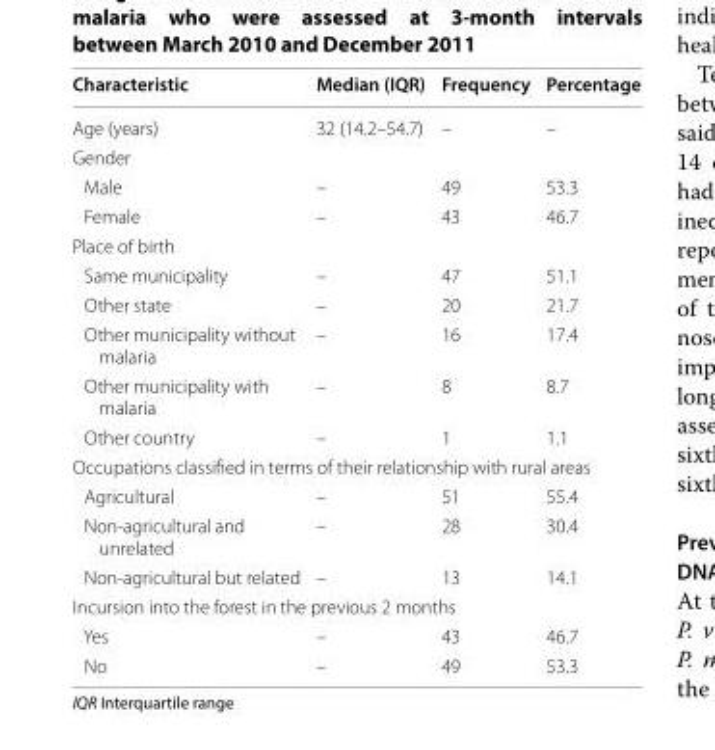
<table><thead><tr><td>Characteristic</td><td>Median (IQR)</td><td>Frequency</td><td>Percentage</td></tr></thead><tbody><tr><td>Age (years)</td><td>32 (14.2–54.7)</td><td>–</td><td>–</td></tr><tr><td colspan="4">Gender</td></tr><tr><td>Male</td><td>–</td><td>49</td><td>53.3</td></tr><tr><td>Female</td><td>–</td><td>43</td><td>46.7</td></tr><tr><td colspan="4">Place of birth</td></tr><tr><td>Same municipality</td><td>–</td><td>47</td><td>51.1</td></tr><tr><td>Other state</td><td>–</td><td>20</td><td>21.7</td></tr><tr><td>Other municipality without malaria</td><td>–</td><td>16</td><td>17.4</td></tr><tr><td>Other municipality with malaria</td><td>–</td><td>8</td><td>8.7</td></tr><tr><td>Other country</td><td>–</td><td>1</td><td>1.1</td></tr><tr><td colspan="4">Occupations classified in terms of their relationship with rural areas</td></tr><tr><td>Agricultural</td><td>–</td><td>51</td><td>55.4</td></tr><tr><td>Non‑agricultural and unrelated</td><td>–</td><td>28</td><td>30.4</td></tr><tr><td>Non‑agricultural but related</td><td>–</td><td>13</td><td>14.1</td></tr><tr><td colspan="4">Incursion into the forest in the previous 2 months</td></tr><tr><td>Yes</td><td>–</td><td>43</td><td>46.7</td></tr><tr><td>No</td><td>–</td><td>49</td><td>53.3</td></tr></tbody></table>